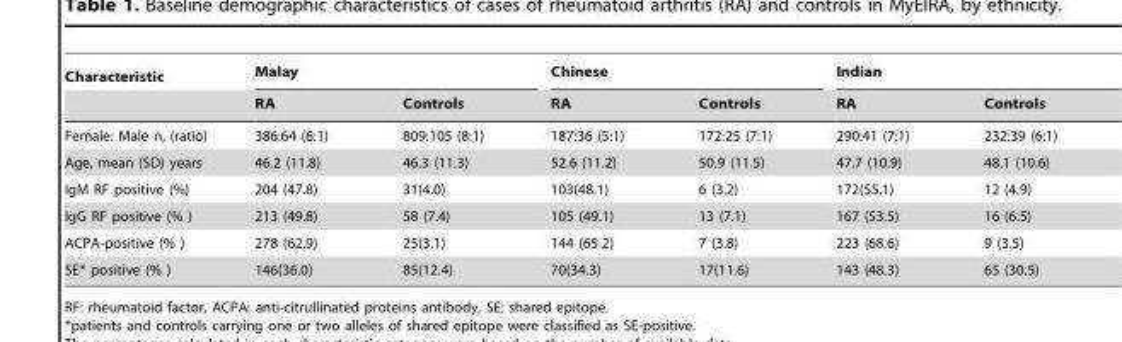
<table><thead><tr><td rowspan="2">Characteristic</td><td colspan="2">Malay</td><td colspan="2">Chinese</td><td colspan="2">Indian</td></tr><tr><td>RA</td><td>Controls</td><td>RA</td><td>Controls</td><td>RA</td><td>Controls</td></tr></thead><tbody><tr><td>Female: Male n, (ratio)</td><td>386:64 (6:1)</td><td>809:105 (8:1)</td><td>187:36 (5:1)</td><td>172:25 (7:1)</td><td>290:41 (7:1)</td><td>232:39 (6:1)</td></tr><tr><td>Age, mean (SD) years</td><td>46.2 (11.8)</td><td>46.3 (11.3)</td><td>52.6 (11.2)</td><td>50.9 (11.5)</td><td>47.7 (10.9)</td><td>48.1 (10.6)</td></tr><tr><td>IgM RF positive (%)</td><td>204 (47.8)</td><td>31(4.0)</td><td>103(48.1)</td><td>6 (3.2)</td><td>172(55.1)</td><td>12 (4.9)</td></tr><tr><td>IgG RF positive (% )</td><td>213 (49.8)</td><td>58 (7.4)</td><td>105 (49.1)</td><td>13 (7.1)</td><td>167 (53.5)</td><td>16 (6.5)</td></tr><tr><td>ACPA-positive (% )</td><td>278 (62.9)</td><td>25(3.1)</td><td>144 (65.2)</td><td>7 (3.8)</td><td>223 (68.6)</td><td>9 (3.5)</td></tr><tr><td>SE* positive (% )</td><td>146(36.0)</td><td>85(12.4)</td><td>70(34.3)</td><td>17(11.6)</td><td>143 (48.3)</td><td>65 (30.5)</td></tr></tbody></table>